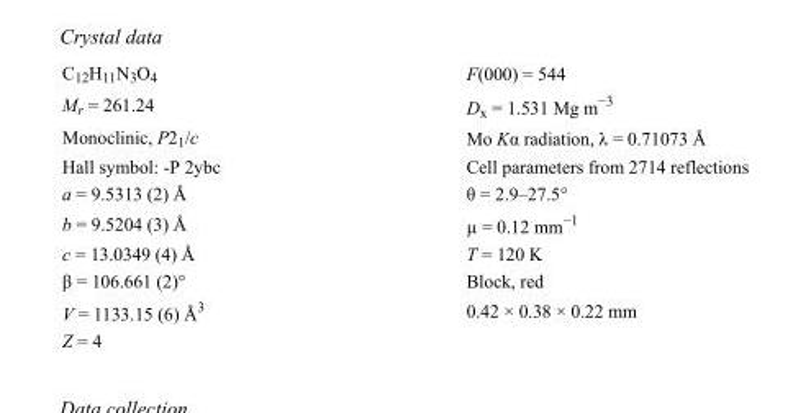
<table><tbody><tr><td>C<sub>12</sub>H<sub>11</sub>N<sub>3</sub>O<sub>4</sub></td><td>F(000) = 544</td></tr><tr><td>M<sub>r</sub> = 261.24</td><td>D<sub>x</sub> = 1.531 Mg m<sup>−3</sup></td></tr><tr><td>Monoclinic, P2<sub>1</sub>/c</td><td>Mo Kα radiation, λ = 0.71073 Å</td></tr><tr><td>Hall symbol: -P 2ybc</td><td>Cell parameters from 2714 reflections</td></tr><tr><td>a = 9.5313 (2) Å</td><td>θ = 2.9–27.5°</td></tr><tr><td>b = 9.5204 (3) Å</td><td>µ = 0.12 mm<sup>−1</sup></td></tr><tr><td>c = 13.0349 (4) Å</td><td>T = 120 K</td></tr><tr><td>β = 106.661 (2)°</td><td>Block, red</td></tr><tr><td>V = 1133.15 (6) Å<sup>3</sup></td><td>0.42 × 0.38 × 0.22 mm</td></tr><tr><td>Z = 4</td><td></td></tr></tbody></table>